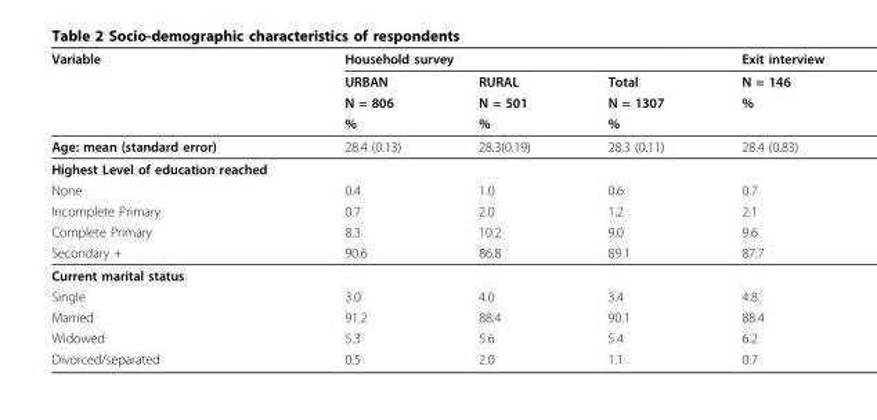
<table><thead><tr><td rowspan="4">Variable</td><td colspan="2">Household survey</td><td rowspan="4">Total N = 1307 %</td><td rowspan="4">Exit interview N = 146 %</td></tr><tr><td rowspan="3">URBAN N = 806 %</td><td rowspan="3">RURAL N = 501 %</td></tr><tr></tr><tr></tr></thead><tbody><tr><td>Age: mean (standard error)</td><td>28.4 (0.13)</td><td>28.3(0.19)</td><td>28.3 (0.11)</td><td>28.4 (0.83)</td></tr><tr><td colspan="5">Highest Level of education reached</td></tr><tr><td>None</td><td>0.4</td><td>1.0</td><td>0.6</td><td>0.7</td></tr><tr><td>Incomplete Primary</td><td>0.7</td><td>2.0</td><td>1.2</td><td>2.1</td></tr><tr><td>Complete Primary</td><td>8.3</td><td>10.2</td><td>9.0</td><td>9.6</td></tr><tr><td>Secondary +</td><td>90.6</td><td>86.8</td><td>89.1</td><td>87.7</td></tr><tr><td colspan="5">Current marital status</td></tr><tr><td>Single</td><td>3.0</td><td>4.0</td><td>3.4</td><td>4.8</td></tr><tr><td>Married</td><td>91.2</td><td>88.4</td><td>90.1</td><td>88.4</td></tr><tr><td>Widowed</td><td>5.3</td><td>5.6</td><td>5.4</td><td>6.2</td></tr><tr><td>Divorced/separated</td><td>0.5</td><td>2.0</td><td>1.1</td><td>0.7</td></tr></tbody></table>